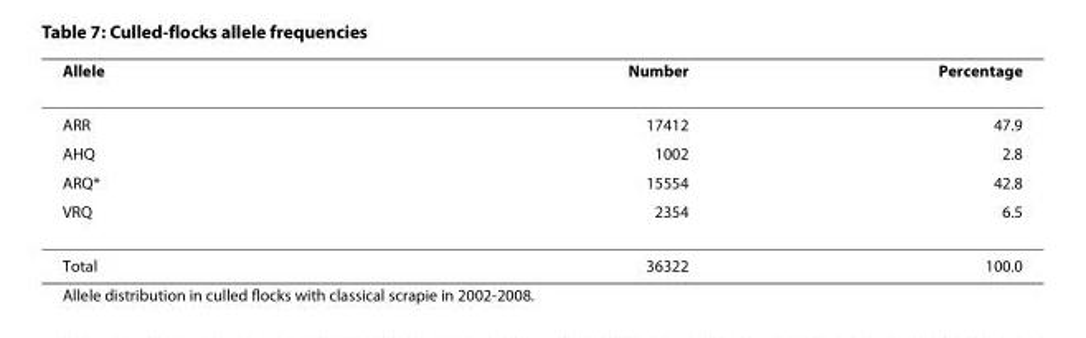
<table><thead><tr><td>Allele</td><td>Number</td><td>Percentage</td></tr></thead><tbody><tr><td>ARR</td><td>17412</td><td>47.9</td></tr><tr><td>AHQ</td><td>1002</td><td>2.8</td></tr><tr><td>ARQ*</td><td>15554</td><td>42.8</td></tr><tr><td>VRQ</td><td>2354</td><td>6.5</td></tr><tr><td>Total</td><td>36322</td><td>100.0</td></tr></tbody></table>